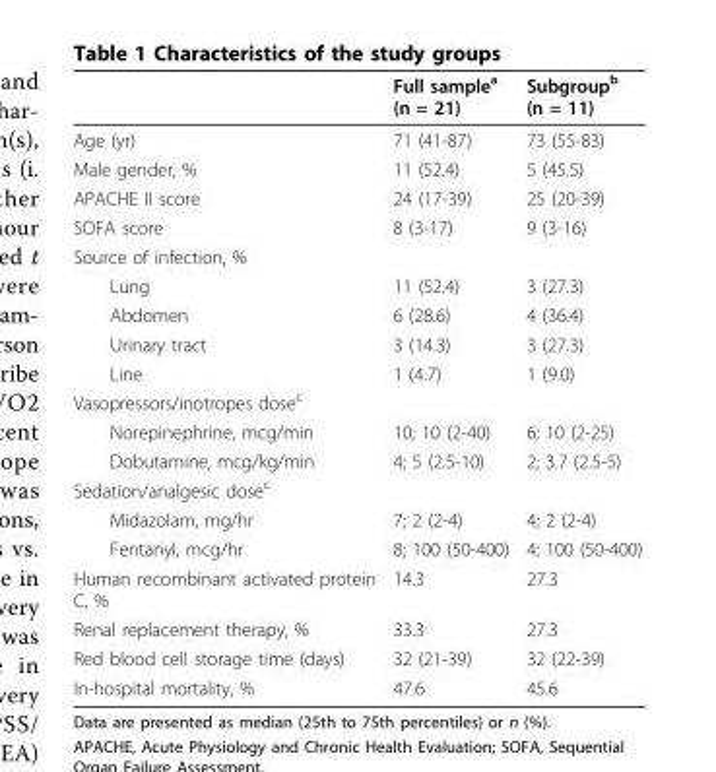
<table><thead><tr><td></td><td>Full sample<sup>a</sup> (n = 21)</td><td>Subgroup<sup>b</sup> (n = 11)</td></tr></thead><tbody><tr><td>Age (yr)</td><td>71 (41-87)</td><td>73 (55-83)</td></tr><tr><td>Male gender, %</td><td>11 (52.4)</td><td>5 (45.5)</td></tr><tr><td>APACHE II score</td><td>24 (17-39)</td><td>25 (20-39)</td></tr><tr><td>SOFA score</td><td>8 (3-17)</td><td>9 (3-16)</td></tr><tr><td colspan="3">Source of infection, %</td></tr><tr><td>Lung</td><td>11 (52.4)</td><td>3 (27.3)</td></tr><tr><td>Abdomen</td><td>6 (28.6)</td><td>4 (36.4)</td></tr><tr><td>Urinary tract</td><td>3 (14.3)</td><td>3 (27.3)</td></tr><tr><td>Line</td><td>1 (4.7)</td><td>1 (9.0)</td></tr><tr><td colspan="3">Vasopressors/inotropes dose<sup>c</sup></td></tr><tr><td>Norepinephrine, mcg/min</td><td>10; 10 (2-40)</td><td>6; 10 (2-25)</td></tr><tr><td>Dobutamine, mcg/kg/min</td><td>4; 5 (2.5-10)</td><td>2; 3.7 (2.5-5)</td></tr><tr><td colspan="3">Sedation/analgesic dose<sup>c</sup></td></tr><tr><td>Midazolam, mg/hr</td><td>7; 2 (2-4)</td><td>4; 2 (2-4)</td></tr><tr><td>Fentanyl, mcg/hr</td><td>8; 100 (50-400)</td><td>4; 100 (50-400)</td></tr><tr><td>Human recombinant activated protein C, %</td><td>14.3</td><td>27.3</td></tr><tr><td>Renal replacement therapy, %</td><td>33.3</td><td>27.3</td></tr><tr><td>Red blood cell storage time (days)</td><td>32 (21-39)</td><td>32 (22-39)</td></tr><tr><td>In-hospital mortality, %</td><td>47.6</td><td>45.6</td></tr></tbody></table>